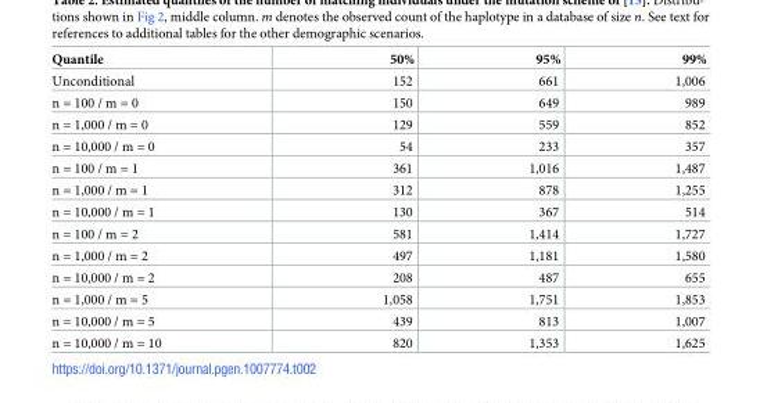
<table><thead><tr><td>Quantile</td><td>50%</td><td>95%</td><td>99%</td></tr></thead><tbody><tr><td>Unconditional</td><td>152</td><td>661</td><td>1,006</td></tr><tr><td>n = 100 / m = 0</td><td>150</td><td>649</td><td>989</td></tr><tr><td>n = 1,000 / m = 0</td><td>129</td><td>559</td><td>852</td></tr><tr><td>n = 10,000 / m = 0</td><td>54</td><td>233</td><td>357</td></tr><tr><td>n = 100 / m = 1</td><td>361</td><td>1,016</td><td>1,487</td></tr><tr><td>n = 1,000 / m = 1</td><td>312</td><td>878</td><td>1,255</td></tr><tr><td>n = 10,000 / m = 1</td><td>130</td><td>367</td><td>514</td></tr><tr><td>n = 100 / m = 2</td><td>581</td><td>1,414</td><td>1,727</td></tr><tr><td>n = 1,000 / m = 2</td><td>497</td><td>1,181</td><td>1,580</td></tr><tr><td>n = 10,000 / m = 2</td><td>208</td><td>487</td><td>655</td></tr><tr><td>n = 1,000 / m = 5</td><td>1,058</td><td>1,751</td><td>1,853</td></tr><tr><td>n = 10,000 / m = 5</td><td>439</td><td>813</td><td>1,007</td></tr><tr><td>n = 10,000 / m = 10</td><td>820</td><td>1,353</td><td>1,625</td></tr></tbody></table>